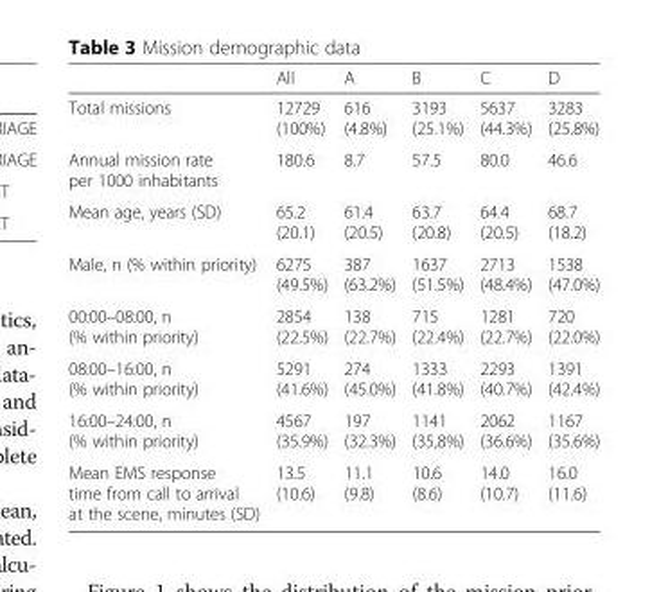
<table><thead><tr><td></td><td>All</td><td>A</td><td>B</td><td>C</td><td>D</td></tr></thead><tbody><tr><td>Total missions</td><td>12729 (100%)</td><td>616 (4.8%)</td><td>3193 (25.1%)</td><td>5637 (44.3%)</td><td>3283 (25.8%)</td></tr><tr><td>Annual mission rate per 1000 inhabitants</td><td>180.6</td><td>8.7</td><td>57.5</td><td>80.0</td><td>46.6</td></tr><tr><td>Mean age, years (SD)</td><td>65.2 (20.1)</td><td>61.4 (20.5)</td><td>63.7 (20.8)</td><td>64.4 (20.5)</td><td>68.7 (18.2)</td></tr><tr><td>Male, n (% within priority)</td><td>6275 (49.5%)</td><td>387 (63.2%)</td><td>1637 (51.5%)</td><td>2713 (48.4%)</td><td>1538 (47.0%)</td></tr><tr><td>00:00–08:00, n (% within priority)</td><td>2854 (22.5%)</td><td>138 (22.7%)</td><td>715 (22.4%)</td><td>1281 (22.7%)</td><td>720 (22.0%)</td></tr><tr><td>08:00–16:00, n (% within priority)</td><td>5291 (41.6%)</td><td>274 (45.0%)</td><td>1333 (41.8%)</td><td>2293 (40.7%)</td><td>1391 (42.4%)</td></tr><tr><td>16:00–24:00, n (% within priority)</td><td>4567 (35.9%)</td><td>197 (32.3%)</td><td>1141 (35,8%)</td><td>2062 (36.6%)</td><td>1167 (35.6%)</td></tr><tr><td>Mean EMS response time from call to arrival at the scene, minutes (SD)</td><td>13.5 (10.6)</td><td>11.1 (9.8)</td><td>10.6 (8.6)</td><td>14.0 (10.7)</td><td>16.0 (11.6)</td></tr></tbody></table>